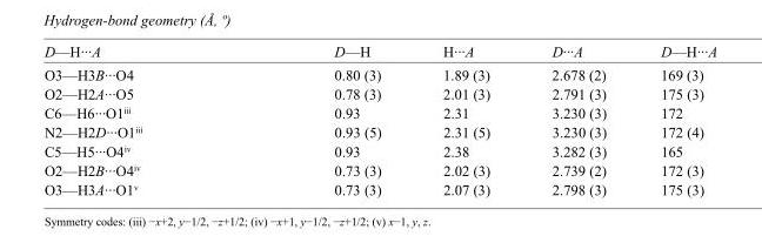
<table><tbody><tr><td>D—H···A</td><td>D—H</td><td>H···A</td><td>D···A</td><td>D—H···A</td></tr><tr><td>O3—H3B···O4</td><td>0.80 (3)</td><td>1.89 (3)</td><td>2.678 (2)</td><td>169 (3)</td></tr><tr><td>O2—H2A···O5</td><td>0.78 (3)</td><td>2.01 (3)</td><td>2.791 (3)</td><td>175 (3)</td></tr><tr><td>C6—H6···O1<sup>iii</sup></td><td>0.93</td><td>2.31</td><td>3.230 (3)</td><td>172</td></tr><tr><td>N2—H2D···O1<sup>iii</sup></td><td>0.93 (5)</td><td>2.31 (5)</td><td>3.230 (3)</td><td>172 (4)</td></tr><tr><td>C5—H5···O4<sup>iv</sup></td><td>0.93</td><td>2.38</td><td>3.282 (3)</td><td>165</td></tr><tr><td>O2—H2B···O4<sup>iv</sup></td><td>0.73 (3)</td><td>2.02 (3)</td><td>2.739 (2)</td><td>172 (3)</td></tr><tr><td>O3—H3A···O1<sup>v</sup></td><td>0.73 (3)</td><td>2.07 (3)</td><td>2.798 (3)</td><td>175 (3)</td></tr></tbody></table>